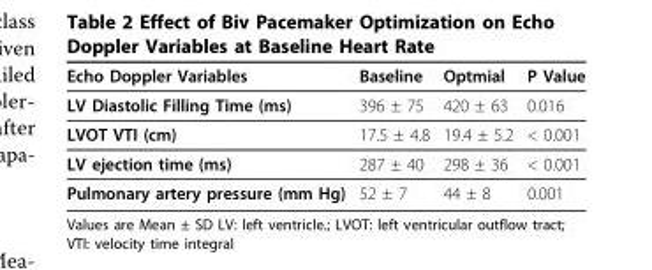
<table><thead><tr><td>Echo Doppler Variables</td><td>Baseline</td><td>Optmial</td><td>P Value</td></tr></thead><tbody><tr><td>LV Diastolic Filling Time (ms)</td><td>396 ± 75</td><td>420 ± 63</td><td>0.016</td></tr><tr><td>LVOT VTI (cm)</td><td>17.5 ± 4.8</td><td>19.4 ± 5.2</td><td>&lt; 0.001</td></tr><tr><td>LV ejection time (ms)</td><td>287 ± 40</td><td>298 ± 36</td><td>&lt; 0.001</td></tr><tr><td>Pulmonary artery pressure (mm Hg)</td><td>52 ± 7</td><td>44 ± 8</td><td>0.001</td></tr></tbody></table>